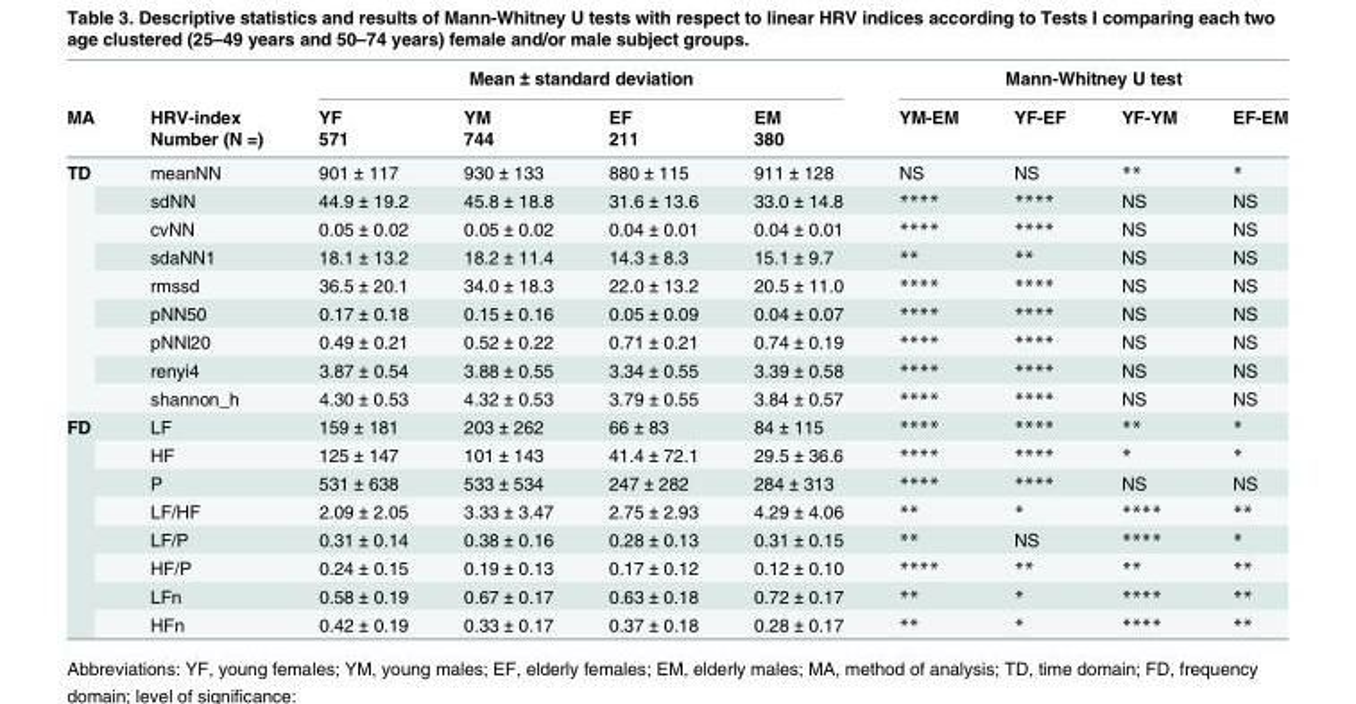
<table><thead><tr><td rowspan="3">MA</td><td rowspan="3">HRV-index Number (N =)</td><td colspan="4">Mean ± standard deviation</td><td colspan="4">Mann-Whitney U test</td></tr><tr><td rowspan="2">YF 571</td><td rowspan="2">YM 744</td><td rowspan="2">EF 211</td><td rowspan="2">EM 380</td><td rowspan="2">YM-EM</td><td rowspan="2">YF-EF</td><td rowspan="2">YF-YM</td><td rowspan="2">EF-EM</td></tr><tr></tr></thead><tbody><tr><td rowspan="9">TD</td><td>meanNN</td><td>901 ± 117</td><td>930 ± 133</td><td>880 ± 115</td><td>911 ± 128</td><td>NS</td><td>NS</td><td>**</td><td>*</td></tr><tr><td>sdNN</td><td>44.9 ± 19.2</td><td>45.8 ± 18.8</td><td>31.6 ± 13.6</td><td>33.0 ± 14.8</td><td>****</td><td>****</td><td>NS</td><td>NS</td></tr><tr><td>cvNN</td><td>0.05 ± 0.02</td><td>0.05 ± 0.02</td><td>0.04 ± 0.01</td><td>0.04 ± 0.01</td><td>****</td><td>****</td><td>NS</td><td>NS</td></tr><tr><td>sdaNN1</td><td>18.1 ± 13.2</td><td>18.2 ± 11.4</td><td>14.3 ± 8.3</td><td>15.1 ± 9.7</td><td>**</td><td>**</td><td>NS</td><td>NS</td></tr><tr><td>rmssd</td><td>36.5 ± 20.1</td><td>34.0 ± 18.3</td><td>22.0 ± 13.2</td><td>20.5 ± 11.0</td><td>****</td><td>****</td><td>NS</td><td>NS</td></tr><tr><td>pNN50</td><td>0.17 ± 0.18</td><td>0.15 ± 0.16</td><td>0.05 ± 0.09</td><td>0.04 ± 0.07</td><td>****</td><td>****</td><td>NS</td><td>NS</td></tr><tr><td>pNNl20</td><td>0.49 ± 0.21</td><td>0.52 ± 0.22</td><td>0.71 ± 0.21</td><td>0.74 ± 0.19</td><td>****</td><td>****</td><td>NS</td><td>NS</td></tr><tr><td>renyi4</td><td>3.87 ± 0.54</td><td>3.88 ± 0.55</td><td>3.34 ± 0.55</td><td>3.39 ± 0.58</td><td>****</td><td>****</td><td>NS</td><td>NS</td></tr><tr><td>shannon_h</td><td>4.30 ± 0.53</td><td>4.32 ± 0.53</td><td>3.79 ± 0.55</td><td>3.84 ± 0.57</td><td>****</td><td>****</td><td>NS</td><td>NS</td></tr><tr><td rowspan="8">FD</td><td>LF</td><td>159 ± 181</td><td>203 ± 262</td><td>66 ± 83</td><td>84 ± 115</td><td>****</td><td>****</td><td>**</td><td>*</td></tr><tr><td>HF</td><td>125 ± 147</td><td>101 ± 143</td><td>41.4 ± 72.1</td><td>29.5 ± 36.6</td><td>****</td><td>****</td><td>*</td><td>*</td></tr><tr><td>P</td><td>531 ± 638</td><td>533 ± 534</td><td>247 ± 282</td><td>284 ± 313</td><td>****</td><td>****</td><td>NS</td><td>NS</td></tr><tr><td>LF/HF</td><td>2.09 ± 2.05</td><td>3.33 ± 3.47</td><td>2.75 ± 2.93</td><td>4.29 ± 4.06</td><td>**</td><td>*</td><td>****</td><td>**</td></tr><tr><td>LF/P</td><td>0.31 ± 0.14</td><td>0.38 ± 0.16</td><td>0.28 ± 0.13</td><td>0.31 ± 0.15</td><td>**</td><td>NS</td><td>****</td><td>*</td></tr><tr><td>HF/P</td><td>0.24 ± 0.15</td><td>0.19 ± 0.13</td><td>0.17 ± 0.12</td><td>0.12 ± 0.10</td><td>****</td><td>**</td><td>**</td><td>**</td></tr><tr><td>LFn</td><td>0.58 ± 0.19</td><td>0.67 ± 0.17</td><td>0.63 ± 0.18</td><td>0.72 ± 0.17</td><td>**</td><td>*</td><td>****</td><td>**</td></tr><tr><td>HFn</td><td>0.42 ± 0.19</td><td>0.33 ± 0.17</td><td>0.37 ± 0.18</td><td>0.28 ± 0.17</td><td>**</td><td>*</td><td>****</td><td>**</td></tr></tbody></table>